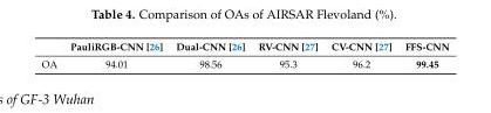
<table><thead><tr><td></td><td>PauliRGB-CNN [26]</td><td>Dual-CNN [26]</td><td>RV-CNN [27]</td><td>CV-CNN [27]</td><td>FFS-CNN</td></tr></thead><tbody><tr><td>OA</td><td>94.01</td><td>98.56</td><td>95.3</td><td>96.2</td><td>99.45</td></tr></tbody></table>